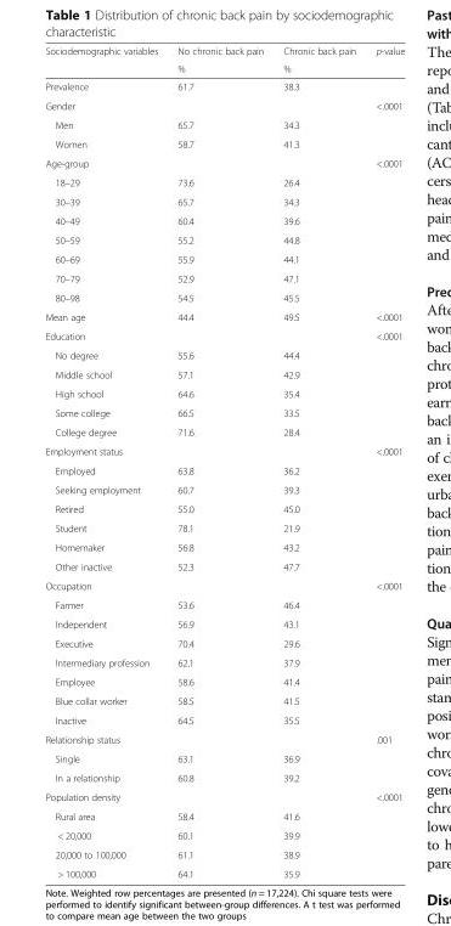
<table><thead><tr><td rowspan="2">Sociodemographic variables</td><td rowspan="2">No chronic back pain %</td><td rowspan="2">Chronic back pain %</td><td rowspan="2">p-value</td></tr><tr></tr></thead><tbody><tr><td>Prevalence</td><td>61.7</td><td>38.3</td><td></td></tr><tr><td>Gender</td><td></td><td></td><td>&lt;.0001</td></tr><tr><td>Men</td><td>65.7</td><td>34.3</td><td></td></tr><tr><td>Women</td><td>58.7</td><td>41.3</td><td></td></tr><tr><td>Age-group</td><td></td><td></td><td>&lt;.0001</td></tr><tr><td>18–29</td><td>73.6</td><td>26.4</td><td></td></tr><tr><td>30–39</td><td>65.7</td><td>34.3</td><td></td></tr><tr><td>40–49</td><td>60.4</td><td>39.6</td><td></td></tr><tr><td>50–59</td><td>55.2</td><td>44.8</td><td></td></tr><tr><td>60–69</td><td>55.9</td><td>44.1</td><td></td></tr><tr><td>70–79</td><td>52.9</td><td>47.1</td><td></td></tr><tr><td>80–98</td><td>54.5</td><td>45.5</td><td></td></tr><tr><td>Mean age</td><td>44.4</td><td>49.5</td><td>&lt;.0001</td></tr><tr><td>Education</td><td></td><td></td><td>&lt;.0001</td></tr><tr><td>No degree</td><td>55.6</td><td>44.4</td><td></td></tr><tr><td>Middle school</td><td>57.1</td><td>42.9</td><td></td></tr><tr><td>High school</td><td>64.6</td><td>35.4</td><td></td></tr><tr><td>Some college</td><td>66.5</td><td>33.5</td><td></td></tr><tr><td>College degree</td><td>71.6</td><td>28.4</td><td></td></tr><tr><td>Employment status</td><td></td><td></td><td>&lt;.0001</td></tr><tr><td>Employed</td><td>63.8</td><td>36.2</td><td></td></tr><tr><td>Seeking employment</td><td>60.7</td><td>39.3</td><td></td></tr><tr><td>Retired</td><td>55.0</td><td>45.0</td><td></td></tr><tr><td>Student</td><td>78.1</td><td>21.9</td><td></td></tr><tr><td>Homemaker</td><td>56.8</td><td>43.2</td><td></td></tr><tr><td>Other inactive</td><td>52.3</td><td>47.7</td><td></td></tr><tr><td>Occupation</td><td></td><td></td><td>&lt;.0001</td></tr><tr><td>Farmer</td><td>53.6</td><td>46.4</td><td></td></tr><tr><td>Independent</td><td>56.9</td><td>43.1</td><td></td></tr><tr><td>Executive</td><td>70.4</td><td>29.6</td><td></td></tr><tr><td>Intermediary profession</td><td>62.1</td><td>37.9</td><td></td></tr><tr><td>Employee</td><td>58.6</td><td>41.4</td><td></td></tr><tr><td>Blue collar worker</td><td>58.5</td><td>41.5</td><td></td></tr><tr><td>Inactive</td><td>64.5</td><td>35.5</td><td></td></tr><tr><td>Relationship status</td><td></td><td></td><td>.001</td></tr><tr><td>Single</td><td>63.1</td><td>36.9</td><td></td></tr><tr><td>In a relationship</td><td>60.8</td><td>39.2</td><td></td></tr><tr><td>Population density</td><td></td><td></td><td>&lt;.0001</td></tr><tr><td>Rural area</td><td>58.4</td><td>41.6</td><td></td></tr><tr><td>&lt; 20,000</td><td>60.1</td><td>39.9</td><td></td></tr><tr><td>20,000 to 100,000</td><td>61.1</td><td>38.9</td><td></td></tr><tr><td>&gt; 100,000</td><td>64.1</td><td>35.9</td><td></td></tr></tbody></table>